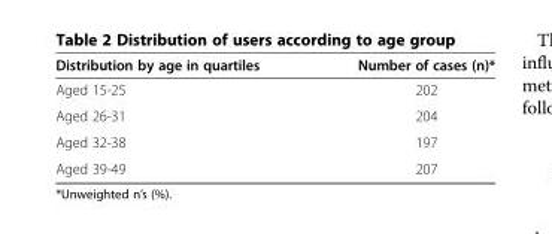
<table><thead><tr><td>Distribution by age in quartiles</td><td>Number of cases (n)*</td></tr></thead><tbody><tr><td>Aged 15-25</td><td>202</td></tr><tr><td>Aged 26-31</td><td>204</td></tr><tr><td>Aged 32-38</td><td>197</td></tr><tr><td>Aged 39-49</td><td>207</td></tr></tbody></table>